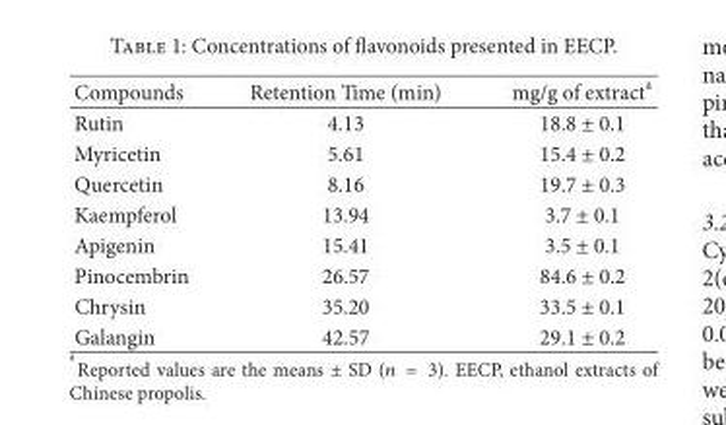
<table><thead><tr><td>Compounds</td><td>Retention Time (min)</td><td>mg/g of extract<sup>a</sup></td></tr></thead><tbody><tr><td>Rutin</td><td>4.13</td><td>18.8 ± 0.1</td></tr><tr><td>Myricetin</td><td>5.61</td><td>15.4 ± 0.2</td></tr><tr><td>Quercetin</td><td>8.16</td><td>19.7 ± 0.3</td></tr><tr><td>Kaempferol</td><td>13.94</td><td>3.7 ± 0.1</td></tr><tr><td>Apigenin</td><td>15.41</td><td>3.5 ± 0.1</td></tr><tr><td>Pinocembrin</td><td>26.57</td><td>84.6 ± 0.2</td></tr><tr><td>Chrysin</td><td>35.20</td><td>33.5 ± 0.1</td></tr><tr><td>Galangin</td><td>42.57</td><td>29.1 ± 0.2</td></tr></tbody></table>